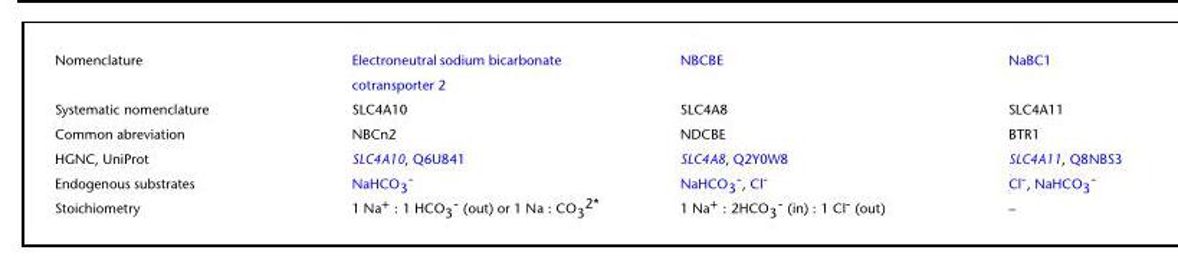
<table><tbody><tr><td rowspan="2">Nomenclature</td><td>Electroneutral sodium bicarbonate</td><td>NBCBE</td><td>NaBC1</td></tr><tr><td>cotransporter 2</td><td></td><td></td></tr><tr><td>Systematic nomenclature</td><td>SLC4A10</td><td>SLC4A8</td><td>SLC4A11</td></tr><tr><td>Common abreviation</td><td>NBCn2</td><td>NDCBE</td><td>BTR1</td></tr><tr><td>HGNC, UniProt</td><td>SLC4A10, Q6U841</td><td>SLC4A8, Q2Y0W8</td><td>SLC4A11, Q8NBS3</td></tr><tr><td>Endogenous substrates</td><td>NaHCO<sub>3</sub><sup>-</sup></td><td>NaHCO<sub>3</sub><sup>-</sup>, Cl<sup>-</sup></td><td>Cl<sup>-</sup>, NaHCO<sub>3</sub><sup>-</sup></td></tr><tr><td>Stoichiometry</td><td>1 Na<sup>+</sup> : 1 HCO<sub>3</sub><sup>-</sup> (out) or 1 Na : CO<sub>3</sub><sup>2*</sup></td><td>1 Na<sup>+</sup> : 2HCO<sub>3</sub><sup>-</sup> (in) : 1 Cl<sup>-</sup> (out)</td><td>–</td></tr></tbody></table>